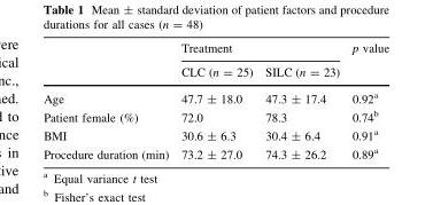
<table><thead><tr><td rowspan="2"></td><td colspan="2">Treatment</td><td rowspan="2">p value</td></tr><tr><td>CLC (n = 25)</td><td>SILC (n = 23)</td></tr></thead><tbody><tr><td>Age</td><td>47.7 ± 18.0</td><td>47.3 ± 17.4</td><td>0.92<sup>a</sup></td></tr><tr><td>Patient female (%)</td><td>72.0</td><td>78.3</td><td>0.74<sup>b</sup></td></tr><tr><td>BMI</td><td>30.6 ± 6.3</td><td>30.4 ± 6.4</td><td>0.91<sup>a</sup></td></tr><tr><td>Procedure duration (min)</td><td>73.2 ± 27.0</td><td>74.3 ± 26.2</td><td>0.89<sup>a</sup></td></tr></tbody></table>